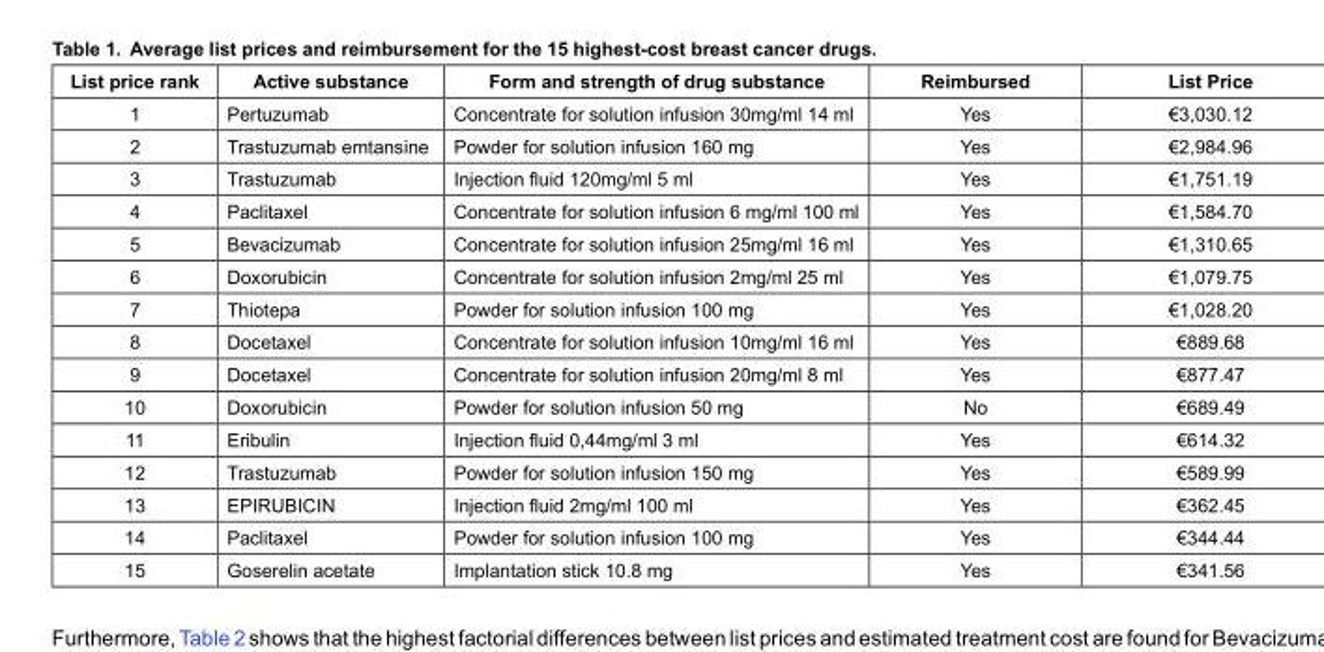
<table><thead><tr><td>List price rank</td><td>Active substance</td><td>Form and strength of drug substance</td><td>Reimbursed</td><td>List Price</td></tr></thead><tbody><tr><td>1</td><td>Pertuzumab</td><td>Concentrate for solution infusion 30mg/ml 14 ml</td><td>Yes</td><td>€3,030.12</td></tr><tr><td>2</td><td>Trastuzumab emtansine</td><td>Powder for solution infusion 160 mg</td><td>Yes</td><td>€2,984.96</td></tr><tr><td>3</td><td>Trastuzumab</td><td>Injection fluid 120mg/ml 5 ml</td><td>Yes</td><td>€1,751.19</td></tr><tr><td>4</td><td>Paclitaxel</td><td>Concentrate for solution infusion 6 mg/ml 100 ml</td><td>Yes</td><td>€1,584.70</td></tr><tr><td>5</td><td>Bevacizumab</td><td>Concentrate for solution infusion 25mg/ml 16 ml</td><td>Yes</td><td>€1,310.65</td></tr><tr><td>6</td><td>Doxorubicin</td><td>Concentrate for solution infusion 2mg/ml 25 ml</td><td>Yes</td><td>€1,079.75</td></tr><tr><td>7</td><td>Thiotepa</td><td>Powder for solution infusion 100 mg</td><td>Yes</td><td>€1,028.20</td></tr><tr><td>8</td><td>Docetaxel</td><td>Concentrate for solution infusion 10mg/ml 16 ml</td><td>Yes</td><td>€889.68</td></tr><tr><td>9</td><td>Docetaxel</td><td>Concentrate for solution infusion 20mg/ml 8 ml</td><td>Yes</td><td>€877.47</td></tr><tr><td>10</td><td>Doxorubicin</td><td>Powder for solution infusion 50 mg</td><td>No</td><td>€689.49</td></tr><tr><td>11</td><td>Eribulin</td><td>Injection fluid 0,44mg/ml 3 ml</td><td>Yes</td><td>€614.32</td></tr><tr><td>12</td><td>Trastuzumab</td><td>Powder for solution infusion 150 mg</td><td>Yes</td><td>€589.99</td></tr><tr><td>13</td><td>EPIRUBICIN</td><td>Injection fluid 2mg/ml 100 ml</td><td>Yes</td><td>€362.45</td></tr><tr><td>14</td><td>Paclitaxel</td><td>Powder for solution infusion 100 mg</td><td>Yes</td><td>€344.44</td></tr><tr><td>15</td><td>Goserelin acetate</td><td>Implantation stick 10.8 mg</td><td>Yes</td><td>€341.56</td></tr></tbody></table>